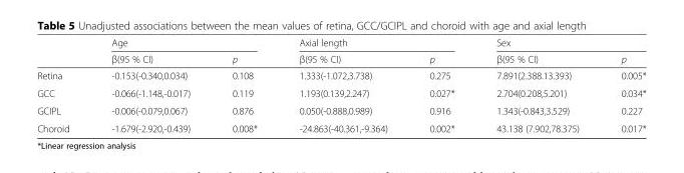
<table><thead><tr><td rowspan="2"></td><td colspan="2">Age</td><td colspan="2">Axial length</td><td colspan="2">Sex</td></tr><tr><td>β(95 % CI)</td><td>p</td><td>β(95 % CI)</td><td>p</td><td>β(95 % CI)</td><td>p</td></tr></thead><tbody><tr><td>Retina</td><td>-0.153(-0.340,0.034)</td><td>0.108</td><td>1.333(-1.072,3.738)</td><td>0.275</td><td>7.891(2.388.13.393)</td><td>0.005*</td></tr><tr><td>GCC</td><td>-0.066(-1.148,-0.017)</td><td>0.119</td><td>1.193(0.139,2.247)</td><td>0.027*</td><td>2.704(0.208,5.201)</td><td>0.034*</td></tr><tr><td>GCIPL</td><td>-0.006(-0.079,0.067)</td><td>0.876</td><td>0.050(-0.888,0.989)</td><td>0.916</td><td>1.343(-0.843,3.529)</td><td>0.227</td></tr><tr><td>Choroid</td><td>-1.679(-2.920,-0.439)</td><td>0.008*</td><td>-24.863(-40.361,-9.364)</td><td>0.002*</td><td>43.138 (7.902,78.375)</td><td>0.017*</td></tr></tbody></table>